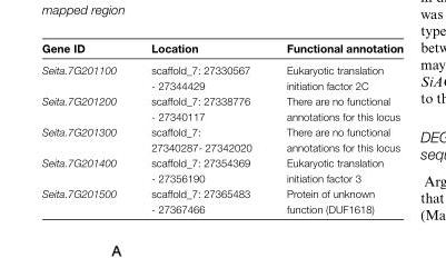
<table><thead><tr><td>Gene ID</td><td>Location</td><td>Functional annotation</td></tr></thead><tbody><tr><td>Seita.7G201100</td><td>scaffold_7: 27330567 - 27344429</td><td>Eukaryotic translation initiation factor 2C</td></tr><tr><td>Seita.7G201200</td><td>scaffold_7: 27338776 - 27340117</td><td>There are no functional annotations for this locus</td></tr><tr><td>Seita.7G201300</td><td>scaffold_7: 27340287- 27342020</td><td>There are no functional annotations for this locus</td></tr><tr><td>Seita.7G201400</td><td>scaffold_7: 27354369 - 27356190</td><td>Eukaryotic translation initiation factor 3</td></tr><tr><td>Seita.7G201500</td><td>scaffold_7: 27365483 - 27367466</td><td>Protein of unknown function (DUF1618)</td></tr></tbody></table>